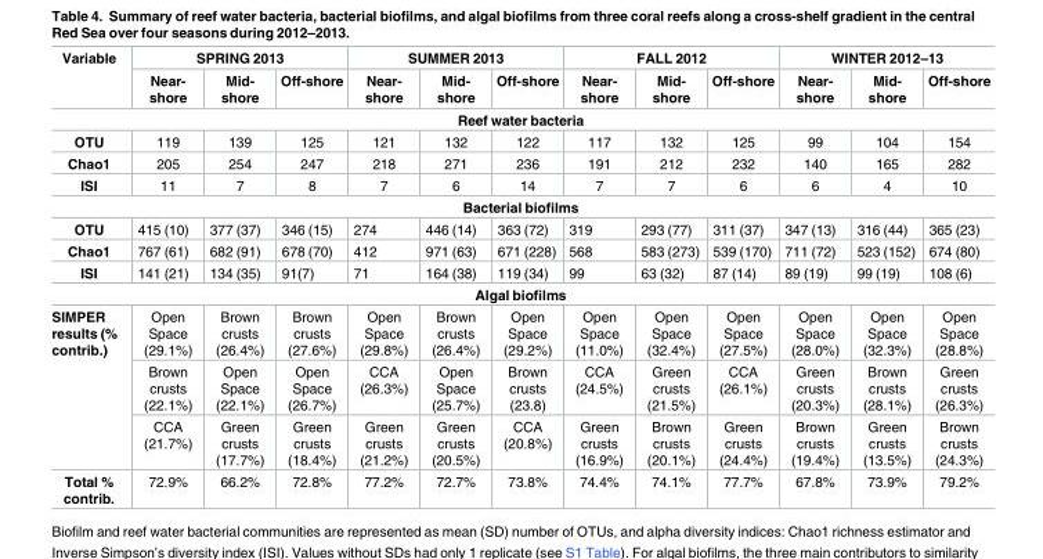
<table><thead><tr><td rowspan="2">Variable</td><td colspan="3">SPRING 2013</td><td colspan="3">SUMMER 2013</td><td colspan="3">FALL 2012</td><td colspan="3">WINTER 2012–13</td></tr><tr><td>Near- shore</td><td>Mid- shore</td><td>Off-shore</td><td>Near- shore</td><td>Mid- shore</td><td>Off-shore</td><td>Near- shore</td><td>Mid- shore</td><td>Off-shore</td><td>Near- shore</td><td>Mid- shore</td><td>Off-shore</td></tr></thead><tbody><tr><td colspan="13">Reef water bacteria</td></tr><tr><td>OTU</td><td>119</td><td>139</td><td>125</td><td>121</td><td>132</td><td>122</td><td>117</td><td>132</td><td>125</td><td>99</td><td>104</td><td>154</td></tr><tr><td>Chao1</td><td>205</td><td>254</td><td>247</td><td>218</td><td>271</td><td>236</td><td>191</td><td>212</td><td>232</td><td>140</td><td>165</td><td>282</td></tr><tr><td>ISI</td><td>11</td><td>7</td><td>8</td><td>7</td><td>6</td><td>14</td><td>7</td><td>7</td><td>6</td><td>6</td><td>4</td><td>10</td></tr><tr><td colspan="13">Bacterial biofilms</td></tr><tr><td>OTU</td><td>415 (10)</td><td>377 (37)</td><td>346 (15)</td><td>274</td><td>446 (14)</td><td>363 (72)</td><td>319</td><td>293 (77)</td><td>311 (37)</td><td>347 (13)</td><td>316 (44)</td><td>365 (23)</td></tr><tr><td>Chao1</td><td>767 (61)</td><td>682 (91)</td><td>678 (70)</td><td>412</td><td>971 (63)</td><td>671 (228)</td><td>568</td><td>583 (273)</td><td>539 (170)</td><td>711 (72)</td><td>523 (152)</td><td>674 (80)</td></tr><tr><td>ISI</td><td>141 (21)</td><td>134 (35)</td><td>91(7)</td><td>71</td><td>164 (38)</td><td>119 (34)</td><td>99</td><td>63 (32)</td><td>87 (14)</td><td>89 (19)</td><td>99 (19)</td><td>108 (6)</td></tr><tr><td colspan="13">Algal biofilms</td></tr><tr><td rowspan="3">SIMPER results (% contrib.)</td><td>Open Space (29.1%)</td><td>Brown crusts (26.4%)</td><td>Brown crusts (27.6%)</td><td>Open Space (29.8%)</td><td>Brown crusts (26.4%)</td><td>Open Space (29.2%)</td><td>Open Space (11.0%)</td><td>Open Space (32.4%)</td><td>Open Space (27.5%)</td><td>Open Space (28.0%)</td><td>Open Space (32.3%)</td><td>Open Space (28.8%)</td></tr><tr><td>Brown crusts (22.1%)</td><td>Open Space (22.1%)</td><td>Open Space (26.7%)</td><td>CCA (26.3%)</td><td>Open Space (25.7%)</td><td>Brown crusts (23.8)</td><td>CCA (24.5%)</td><td>Green crusts (21.5%)</td><td>CCA (26.1%)</td><td>Green crusts (20.3%)</td><td>Brown crusts (28.1%)</td><td>Green crusts (26.3%)</td></tr><tr><td>CCA (21.7%)</td><td>Green crusts (17.7%)</td><td>Green crusts (18.4%)</td><td>Green crusts (21.2%)</td><td>Green crusts (20.5%)</td><td>CCA (20.8%)</td><td>Green crusts (16.9%)</td><td>Brown crusts (20.1%)</td><td>Green crusts (24.4%)</td><td>Brown crusts (19.4%)</td><td>Green crusts (13.5%)</td><td>Brown crusts (24.3%)</td></tr><tr><td>Total % contrib.</td><td>72.9%</td><td>66.2%</td><td>72.8%</td><td>77.2%</td><td>72.7%</td><td>73.8%</td><td>74.4%</td><td>74.1%</td><td>77.7%</td><td>67.8%</td><td>73.9%</td><td>79.2%</td></tr></tbody></table>